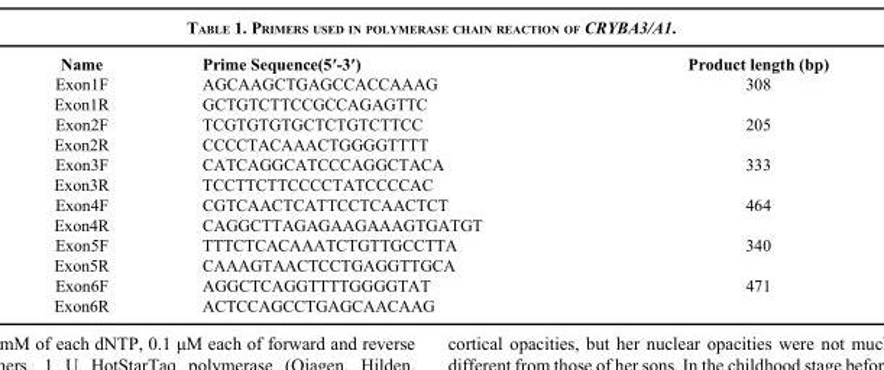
<table><thead><tr><td>Name</td><td>Prime Sequence(5′-3′)</td><td>Product length (bp)</td></tr></thead><tbody><tr><td>Exon1F</td><td>AGCAAGCTGAGCCACCAAAG</td><td>308</td></tr><tr><td>Exon1R</td><td>GCTGTCTTCCGCCAGAGTTC</td><td></td></tr><tr><td>Exon2F</td><td>TCGTGTGTGCTCTGTCTTCC</td><td>205</td></tr><tr><td>Exon2R</td><td>CCCCTACAAACTGGGGTTTT</td><td></td></tr><tr><td>Exon3F</td><td>CATCAGGCATCCCAGGCTACA</td><td>333</td></tr><tr><td>Exon3R</td><td>TCCTTCTTCCCCTATCCCCAC</td><td></td></tr><tr><td>Exon4F</td><td>CGTCAACTCATTCCTCAACTCT</td><td>464</td></tr><tr><td>Exon4R</td><td>CAGGCTTAGAGAAGAAAGTGATGT</td><td></td></tr><tr><td>Exon5F</td><td>TTTCTCACAAATCTGTTGCCTTA</td><td>340</td></tr><tr><td>Exon5R</td><td>CAAAGTAACTCCTGAGGTTGCA</td><td></td></tr><tr><td>Exon6F</td><td>AGGCTCAGGTTTTGGGGTAT</td><td>471</td></tr><tr><td>Exon6R</td><td>ACTCCAGCCTGAGCAACAAG</td><td></td></tr></tbody></table>